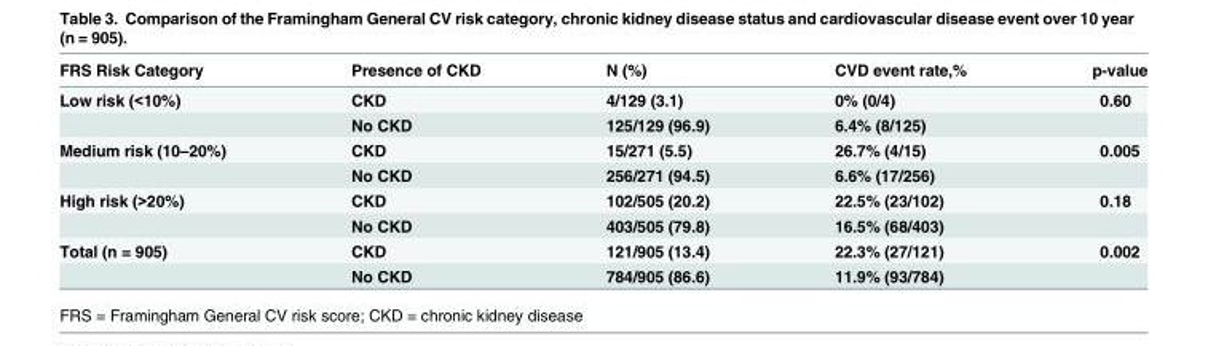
<table><thead><tr><td>FRS Risk Category</td><td>Presence of CKD</td><td>N (%)</td><td>CVD event rate,%</td><td>p-value</td></tr></thead><tbody><tr><td rowspan="2">Low risk (&lt;10%)</td><td>CKD</td><td>4/129 (3.1)</td><td>0% (0/4)</td><td>0.60</td></tr><tr><td>No CKD</td><td>125/129 (96.9)</td><td>6.4% (8/125)</td><td></td></tr><tr><td rowspan="2">Medium risk (10–20%)</td><td>CKD</td><td>15/271 (5.5)</td><td>26.7% (4/15)</td><td>0.005</td></tr><tr><td>No CKD</td><td>256/271 (94.5)</td><td>6.6% (17/256)</td><td></td></tr><tr><td rowspan="2">High risk (&gt;20%)</td><td>CKD</td><td>102/505 (20.2)</td><td>22.5% (23/102)</td><td>0.18</td></tr><tr><td>No CKD</td><td>403/505 (79.8)</td><td>16.5% (68/403)</td><td></td></tr><tr><td rowspan="2">Total (n = 905)</td><td>CKD</td><td>121/905 (13.4)</td><td>22.3% (27/121)</td><td>0.002</td></tr><tr><td>No CKD</td><td>784/905 (86.6)</td><td>11.9% (93/784)</td><td></td></tr></tbody></table>